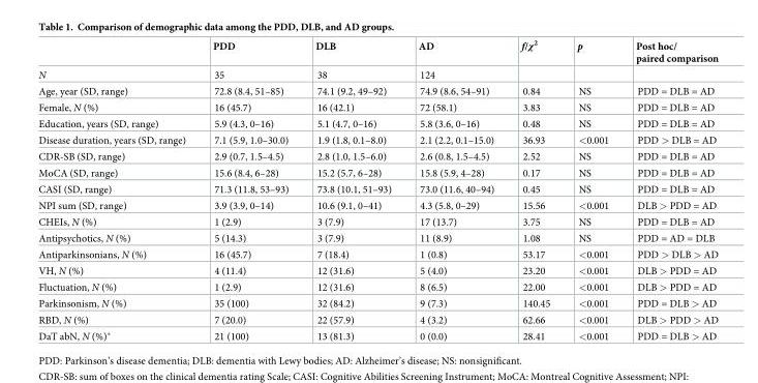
<table><thead><tr><td></td><td>PDD</td><td>DLB</td><td>AD</td><td>f/χ<sup>2</sup></td><td>p</td><td>Post hoc/ paired comparison</td></tr></thead><tbody><tr><td>N</td><td>35</td><td>38</td><td>124</td><td></td><td></td><td></td></tr><tr><td>Age, year (SD, range)</td><td>72.8 (8.4, 51–85)</td><td>74.1 (9.2, 49–92)</td><td>74.9 (8.6, 54–91)</td><td>0.84</td><td>NS</td><td>PDD = DLB = AD</td></tr><tr><td>Female, N (%)</td><td>16 (45.7)</td><td>16 (42.1)</td><td>72 (58.1)</td><td>3.83</td><td>NS</td><td>PDD = DLB = AD</td></tr><tr><td>Education, years (SD, range)</td><td>5.9 (4.3, 0–16)</td><td>5.1 (4.7, 0–16)</td><td>5.8 (3.6, 0–16)</td><td>0.48</td><td>NS</td><td>PDD = DLB = AD</td></tr><tr><td>Disease duration, years (SD, range)</td><td>7.1 (5.9, 1.0–30.0)</td><td>1.9 (1.8, 0.1–8.0)</td><td>2.1 (2.2, 0.1–15.0)</td><td>36.93</td><td>&lt;0.001</td><td>PDD &gt; DLB = AD</td></tr><tr><td>CDR-SB (SD, range)</td><td>2.9 (0.7, 1.5–4.5)</td><td>2.8 (1.0, 1.5–6.0)</td><td>2.6 (0.8, 1.5–4.5)</td><td>2.52</td><td>NS</td><td>PDD = DLB = AD</td></tr><tr><td>MoCA (SD, range)</td><td>15.6 (8.4, 6–28)</td><td>15.2 (5.7, 6–28)</td><td>15.8 (5.9, 4–28)</td><td>0.17</td><td>NS</td><td>PDD = DLB = AD</td></tr><tr><td>CASI (SD, range)</td><td>71.3 (11.8, 53–93)</td><td>73.8 (10.1, 51–93)</td><td>73.0 (11.6, 40–94)</td><td>0.45</td><td>NS</td><td>PDD = DLB = AD</td></tr><tr><td>NPI sum (SD, range)</td><td>3.9 (3.9, 0–14)</td><td>10.6 (9.1, 0–41)</td><td>4.3 (5.8, 0–29)</td><td>15.56</td><td>&lt;0.001</td><td>DLB &gt; PDD = AD</td></tr><tr><td>CHEIs, N (%)</td><td>1 (2.9)</td><td>3 (7.9)</td><td>17 (13.7)</td><td>3.75</td><td>NS</td><td>PDD = DLB = AD</td></tr><tr><td>Antipsychotics, N (%)</td><td>5 (14.3)</td><td>3 (7.9)</td><td>11 (8.9)</td><td>1.08</td><td>NS</td><td>PDD = AD = DLB</td></tr><tr><td>Antiparkinsonians, N (%)</td><td>16 (45.7)</td><td>7 (18.4)</td><td>1 (0.8)</td><td>53.17</td><td>&lt;0.001</td><td>PDD &gt; DLB &gt; AD</td></tr><tr><td>VH, N (%)</td><td>4 (11.4)</td><td>12 (31.6)</td><td>5 (4.0)</td><td>23.20</td><td>&lt;0.001</td><td>DLB &gt; PDD = AD</td></tr><tr><td>Fluctuation, N (%)</td><td>1 (2.9)</td><td>12 (31.6)</td><td>8 (6.5)</td><td>22.00</td><td>&lt;0.001</td><td>DLB &gt; PDD = AD</td></tr><tr><td>Parkinsonism, N (%)</td><td>35 (100)</td><td>32 (84.2)</td><td>9 (7.3)</td><td>140.45</td><td>&lt;0.001</td><td>PDD = DLB &gt; AD</td></tr><tr><td>RBD, N (%)</td><td>7 (20.0)</td><td>22 (57.9)</td><td>4 (3.2)</td><td>62.66</td><td>&lt;0.001</td><td>DLB &gt; PDD &gt; AD</td></tr><tr><td>DaT abN, N (%)*</td><td>21 (100)</td><td>13 (81.3)</td><td>0 (0.0)</td><td>28.41</td><td>&lt;0.001</td><td>PDD = DLB &gt; AD</td></tr></tbody></table>